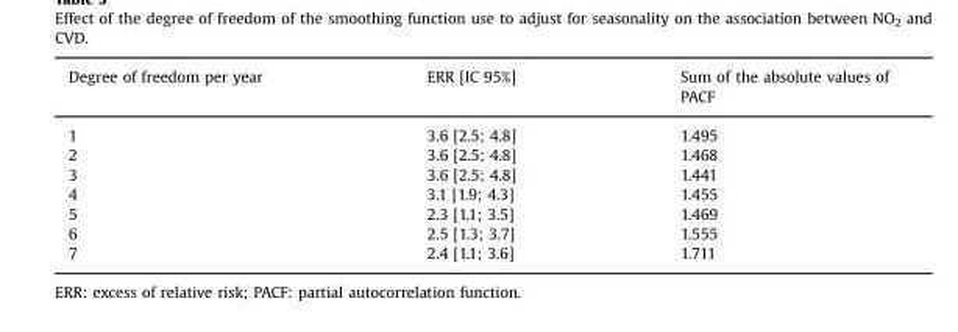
<table><thead><tr><td>Degree of freedom per year</td><td>ERR [IC 95%]</td><td>Sum of the absolute values of PACF</td></tr></thead><tbody><tr><td>1</td><td>3.6 [2.5; 4.8]</td><td>1.495</td></tr><tr><td>2</td><td>3.6 [2.5; 4.8]</td><td>1.468</td></tr><tr><td>3</td><td>3.6 [2.5; 4.8]</td><td>1.441</td></tr><tr><td>4</td><td>3.1 [1.9; 4.3]</td><td>1.455</td></tr><tr><td>5</td><td>2.3 [1.1; 3.5]</td><td>1.469</td></tr><tr><td>6</td><td>2.5 [1.3; 3.7]</td><td>1.555</td></tr><tr><td>7</td><td>2.4 [1.1; 3.6]</td><td>1.711</td></tr></tbody></table>